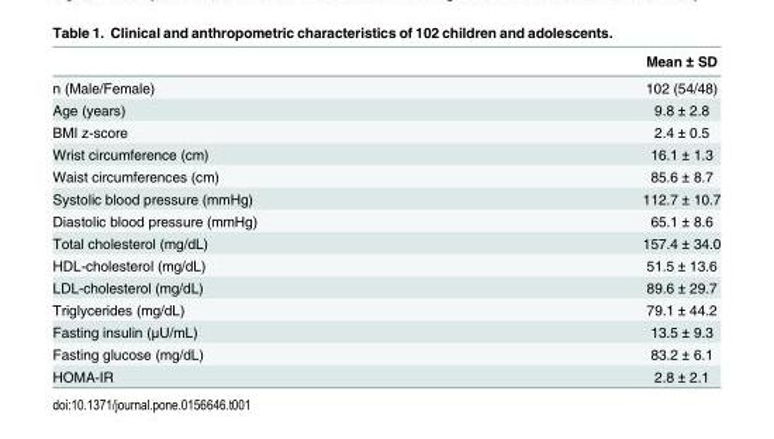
<table><thead><tr><td></td><td>Mean ± SD</td></tr></thead><tbody><tr><td>n (Male/Female)</td><td>102 (54/48)</td></tr><tr><td>Age (years)</td><td>9.8 ± 2.8</td></tr><tr><td>BMI z-score</td><td>2.4 ± 0.5</td></tr><tr><td>Wrist circumference (cm)</td><td>16.1 ± 1.3</td></tr><tr><td>Waist circumferences (cm)</td><td>85.6 ± 8.7</td></tr><tr><td>Systolic blood pressure (mmHg)</td><td>112.7 ± 10.7</td></tr><tr><td>Diastolic blood pressure (mmHg)</td><td>65.1 ± 8.6</td></tr><tr><td>Total cholesterol (mg/dL)</td><td>157.4 ± 34.0</td></tr><tr><td>HDL-cholesterol (mg/dL)</td><td>51.5 ± 13.6</td></tr><tr><td>LDL-cholesterol (mg/dL)</td><td>89.6 ± 29.7</td></tr><tr><td>Triglycerides (mg/dL)</td><td>79.1 ± 44.2</td></tr><tr><td>Fasting insulin (μU/mL)</td><td>13.5 ± 9.3</td></tr><tr><td>Fasting glucose (mg/dL)</td><td>83.2 ± 6.1</td></tr><tr><td>HOMA-IR</td><td>2.8 ± 2.1</td></tr></tbody></table>